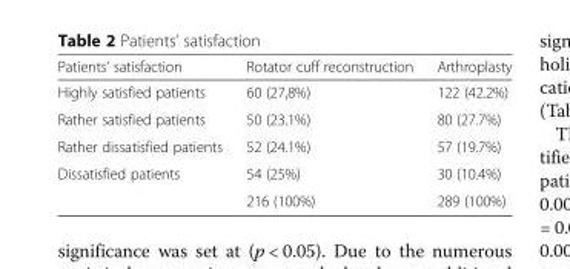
<table><thead><tr><td>Patients’ satisfaction</td><td>Rotator cuff reconstruction</td><td>Arthroplasty</td></tr></thead><tbody><tr><td>Highly satisfied patients</td><td>60 (27,8%)</td><td>122 (42.2%)</td></tr><tr><td>Rather satisfied patients</td><td>50 (23.1%)</td><td>80 (27.7%)</td></tr><tr><td>Rather dissatisfied patients</td><td>52 (24.1%)</td><td>57 (19.7%)</td></tr><tr><td rowspan="2">Dissatisfied patients</td><td>54 (25%)</td><td>30 (10.4%)</td></tr><tr><td>216 (100%)</td><td>289 (100%)</td></tr></tbody></table>